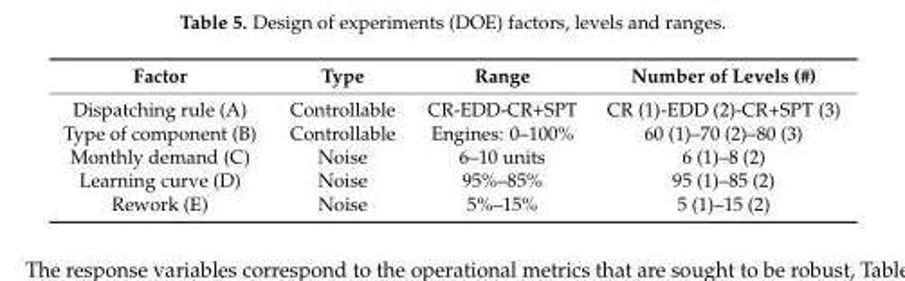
<table><thead><tr><td>Factor</td><td>Type</td><td>Range</td><td>Number of Levels (#)</td></tr></thead><tbody><tr><td>Dispatching rule (A)</td><td>Controllable</td><td>CR-EDD-CR+SPT</td><td>CR (1)-EDD (2)-CR+SPT (3)</td></tr><tr><td>Type of component (B)</td><td>Controllable</td><td>Engines: 0–100%</td><td>60 (1)–70 (2)–80 (3)</td></tr><tr><td>Monthly demand (C)</td><td>Noise</td><td>6–10 units</td><td>6 (1)–8 (2)</td></tr><tr><td>Learning curve (D)</td><td>Noise</td><td>95%–85%</td><td>95 (1)–85 (2)</td></tr><tr><td>Rework (E)</td><td>Noise</td><td>5%–15%</td><td>5 (1)–15 (2)</td></tr></tbody></table>